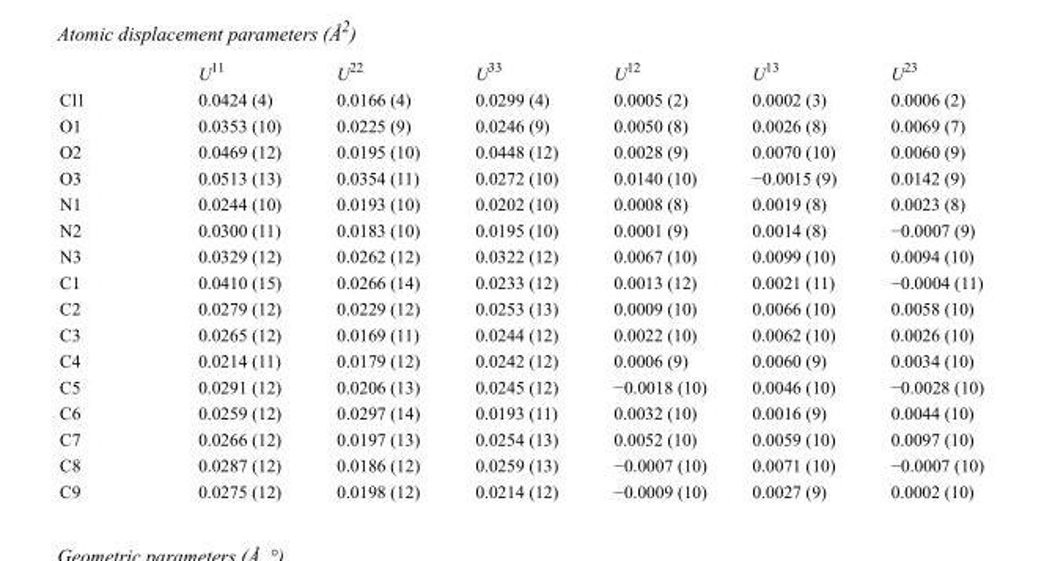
<table><thead><tr><td></td><td>U<sup>11</sup></td><td>U<sup>22</sup></td><td>U<sup>33</sup></td><td>U<sup>12</sup></td><td>U<sup>13</sup></td><td>U<sup>23</sup></td></tr></thead><tbody><tr><td>Cl1</td><td>0.0424 (4)</td><td>0.0166 (4)</td><td>0.0299 (4)</td><td>0.0005 (2)</td><td>0.0002 (3)</td><td>0.0006 (2)</td></tr><tr><td>O1</td><td>0.0353 (10)</td><td>0.0225 (9)</td><td>0.0246 (9)</td><td>0.0050 (8)</td><td>0.0026 (8)</td><td>0.0069 (7)</td></tr><tr><td>O2</td><td>0.0469 (12)</td><td>0.0195 (10)</td><td>0.0448 (12)</td><td>0.0028 (9)</td><td>0.0070 (10)</td><td>0.0060 (9)</td></tr><tr><td>O3</td><td>0.0513 (13)</td><td>0.0354 (11)</td><td>0.0272 (10)</td><td>0.0140 (10)</td><td>−0.0015 (9)</td><td>0.0142 (9)</td></tr><tr><td>N1</td><td>0.0244 (10)</td><td>0.0193 (10)</td><td>0.0202 (10)</td><td>0.0008 (8)</td><td>0.0019 (8)</td><td>0.0023 (8)</td></tr><tr><td>N2</td><td>0.0300 (11)</td><td>0.0183 (10)</td><td>0.0195 (10)</td><td>0.0001 (9)</td><td>0.0014 (8)</td><td>−0.0007 (9)</td></tr><tr><td>N3</td><td>0.0329 (12)</td><td>0.0262 (12)</td><td>0.0322 (12)</td><td>0.0067 (10)</td><td>0.0099 (10)</td><td>0.0094 (10)</td></tr><tr><td>C1</td><td>0.0410 (15)</td><td>0.0266 (14)</td><td>0.0233 (12)</td><td>0.0013 (12)</td><td>0.0021 (11)</td><td>−0.0004 (11)</td></tr><tr><td>C2</td><td>0.0279 (12)</td><td>0.0229 (12)</td><td>0.0253 (13)</td><td>0.0009 (10)</td><td>0.0066 (10)</td><td>0.0058 (10)</td></tr><tr><td>C3</td><td>0.0265 (12)</td><td>0.0169 (11)</td><td>0.0244 (12)</td><td>0.0022 (10)</td><td>0.0062 (10)</td><td>0.0026 (10)</td></tr><tr><td>C4</td><td>0.0214 (11)</td><td>0.0179 (12)</td><td>0.0242 (12)</td><td>0.0006 (9)</td><td>0.0060 (9)</td><td>0.0034 (10)</td></tr><tr><td>C5</td><td>0.0291 (12)</td><td>0.0206 (13)</td><td>0.0245 (12)</td><td>−0.0018 (10)</td><td>0.0046 (10)</td><td>−0.0028 (10)</td></tr><tr><td>C6</td><td>0.0259 (12)</td><td>0.0297 (14)</td><td>0.0193 (11)</td><td>0.0032 (10)</td><td>0.0016 (9)</td><td>0.0044 (10)</td></tr><tr><td>C7</td><td>0.0266 (12)</td><td>0.0197 (13)</td><td>0.0254 (13)</td><td>0.0052 (10)</td><td>0.0059 (10)</td><td>0.0097 (10)</td></tr><tr><td>C8</td><td>0.0287 (12)</td><td>0.0186 (12)</td><td>0.0259 (13)</td><td>−0.0007 (10)</td><td>0.0071 (10)</td><td>−0.0007 (10)</td></tr><tr><td>C9</td><td>0.0275 (12)</td><td>0.0198 (12)</td><td>0.0214 (12)</td><td>−0.0009 (10)</td><td>0.0027 (9)</td><td>0.0002 (10)</td></tr></tbody></table>